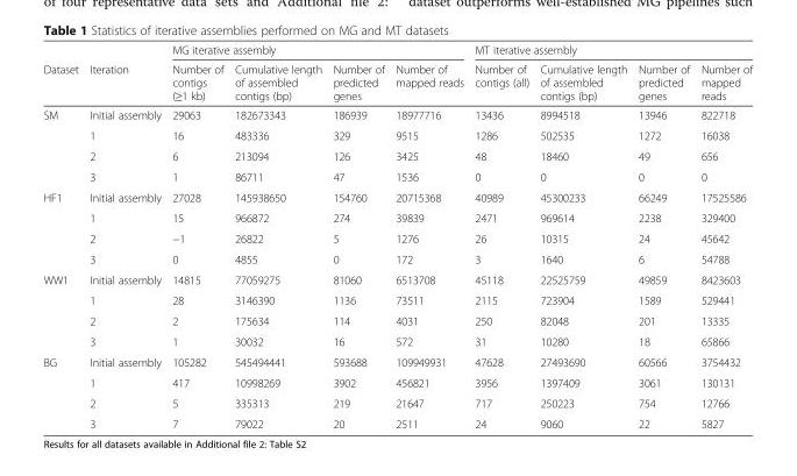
<table><thead><tr><td rowspan="2">Dataset</td><td rowspan="2">Iteration</td><td colspan="4">MG iterative assembly</td><td colspan="4">MT iterative assembly</td></tr><tr><td>Number of contigs (≥1 kb)</td><td>Cumulative length of assembled contigs (bp)</td><td>Number of predicted genes</td><td>Number of mapped reads</td><td>Number of contigs (all)</td><td>Cumulative length of assembled contigs (bp)</td><td>Number of predicted genes</td><td>Number of mapped reads</td></tr></thead><tbody><tr><td rowspan="4">SM</td><td>Initial assembly</td><td>29063</td><td>182673343</td><td>186939</td><td>18977716</td><td>13436</td><td>8994518</td><td>13946</td><td>822718</td></tr><tr><td>1</td><td>16</td><td>483336</td><td>329</td><td>9515</td><td>1286</td><td>502535</td><td>1272</td><td>16038</td></tr><tr><td>2</td><td>6</td><td>213094</td><td>126</td><td>3425</td><td>48</td><td>18460</td><td>49</td><td>656</td></tr><tr><td>3</td><td>1</td><td>86711</td><td>47</td><td>1536</td><td>0</td><td>0</td><td>0</td><td>0</td></tr><tr><td rowspan="4">HF1</td><td>Initial assembly</td><td>27028</td><td>145938650</td><td>154760</td><td>20715368</td><td>40989</td><td>45300233</td><td>66249</td><td>17525586</td></tr><tr><td>1</td><td>15</td><td>966872</td><td>274</td><td>39839</td><td>2471</td><td>969614</td><td>2238</td><td>329400</td></tr><tr><td>2</td><td>−1</td><td>26822</td><td>5</td><td>1276</td><td>26</td><td>10315</td><td>24</td><td>45642</td></tr><tr><td>3</td><td>0</td><td>4855</td><td>0</td><td>172</td><td>3</td><td>1640</td><td>6</td><td>54788</td></tr><tr><td rowspan="4">WW1</td><td>Initial assembly</td><td>14815</td><td>77059275</td><td>81060</td><td>6513708</td><td>45118</td><td>22525759</td><td>49859</td><td>8423603</td></tr><tr><td>1</td><td>28</td><td>3146390</td><td>1136</td><td>73511</td><td>2115</td><td>723904</td><td>1589</td><td>529441</td></tr><tr><td>2</td><td>2</td><td>175634</td><td>114</td><td>4031</td><td>250</td><td>82048</td><td>201</td><td>13335</td></tr><tr><td>3</td><td>1</td><td>30032</td><td>16</td><td>572</td><td>31</td><td>10280</td><td>18</td><td>65866</td></tr><tr><td rowspan="4">BG</td><td>Initial assembly</td><td>105282</td><td>545494441</td><td>593688</td><td>109949931</td><td>47628</td><td>27493690</td><td>60566</td><td>3754432</td></tr><tr><td>1</td><td>417</td><td>10998269</td><td>3902</td><td>456821</td><td>3956</td><td>1397409</td><td>3061</td><td>130131</td></tr><tr><td>2</td><td>5</td><td>335313</td><td>219</td><td>21647</td><td>717</td><td>250223</td><td>754</td><td>12766</td></tr><tr><td>3</td><td>7</td><td>79022</td><td>20</td><td>2511</td><td>24</td><td>9060</td><td>22</td><td>5827</td></tr></tbody></table>